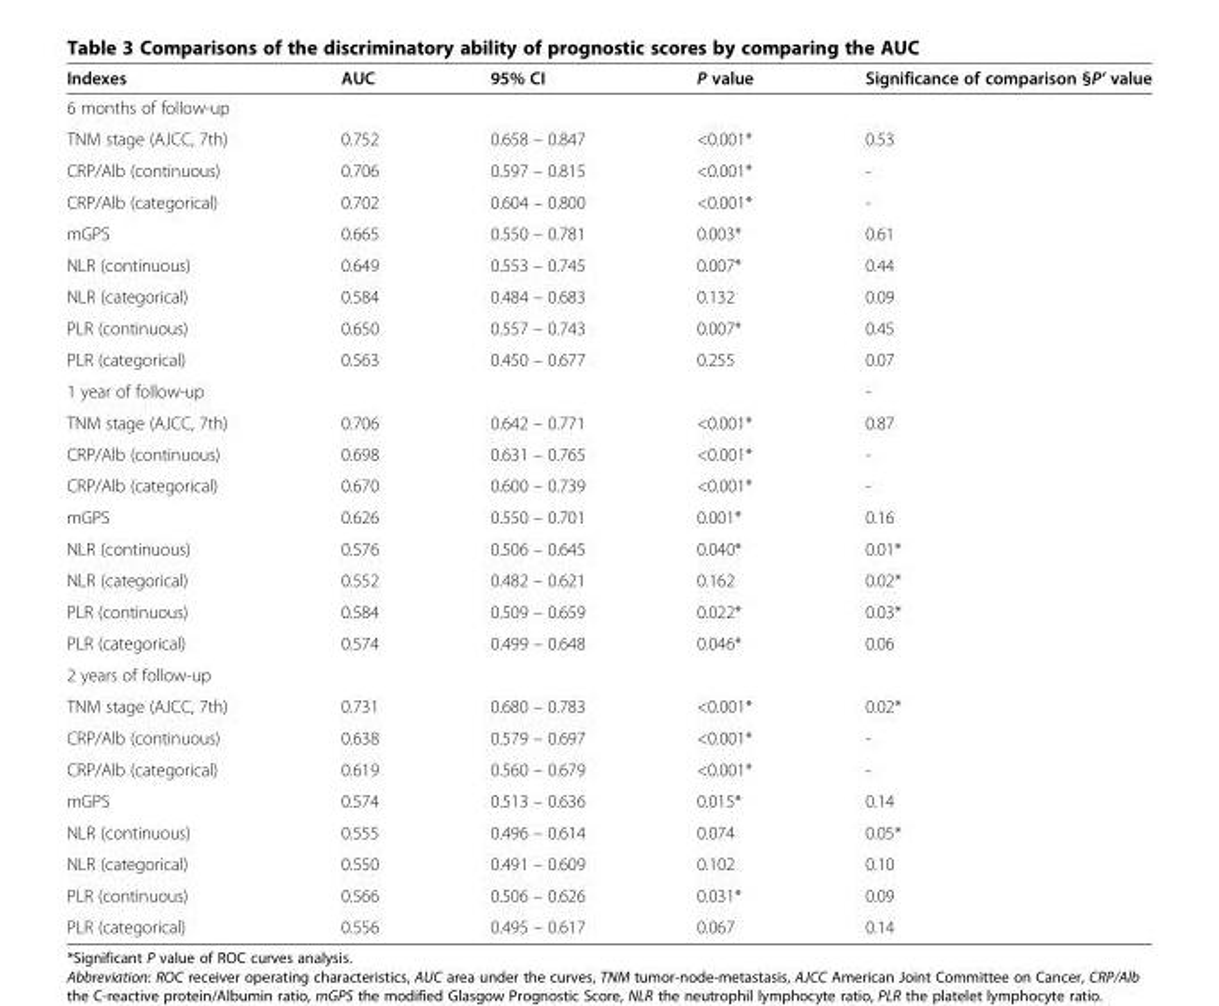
<table><thead><tr><td>Indexes</td><td>AUC</td><td>95% CI</td><td>P value</td><td>Significance of comparison §P’ value</td></tr></thead><tbody><tr><td colspan="5">6 months of follow-up</td></tr><tr><td>TNM stage (AJCC, 7th)</td><td>0.752</td><td>0.658 – 0.847</td><td>&lt;0.001*</td><td>0.53</td></tr><tr><td>CRP/Alb (continuous)</td><td>0.706</td><td>0.597 – 0.815</td><td>&lt;0.001*</td><td>-</td></tr><tr><td>CRP/Alb (categorical)</td><td>0.702</td><td>0.604 – 0.800</td><td>&lt;0.001*</td><td>-</td></tr><tr><td>mGPS</td><td>0.665</td><td>0.550 – 0.781</td><td>0.003*</td><td>0.61</td></tr><tr><td>NLR (continuous)</td><td>0.649</td><td>0.553 – 0.745</td><td>0.007*</td><td>0.44</td></tr><tr><td>NLR (categorical)</td><td>0.584</td><td>0.484 – 0.683</td><td>0.132</td><td>0.09</td></tr><tr><td>PLR (continuous)</td><td>0.650</td><td>0.557 – 0.743</td><td>0.007*</td><td>0.45</td></tr><tr><td>PLR (categorical)</td><td>0.563</td><td>0.450 – 0.677</td><td>0.255</td><td>0.07</td></tr><tr><td>1 year of follow-up</td><td></td><td></td><td></td><td>-</td></tr><tr><td>TNM stage (AJCC, 7th)</td><td>0.706</td><td>0.642 – 0.771</td><td>&lt;0.001*</td><td>0.87</td></tr><tr><td>CRP/Alb (continuous)</td><td>0.698</td><td>0.631 – 0.765</td><td>&lt;0.001*</td><td>-</td></tr><tr><td>CRP/Alb (categorical)</td><td>0.670</td><td>0.600 – 0.739</td><td>&lt;0.001*</td><td>-</td></tr><tr><td>mGPS</td><td>0.626</td><td>0.550 – 0.701</td><td>0.001*</td><td>0.16</td></tr><tr><td>NLR (continuous)</td><td>0.576</td><td>0.506 – 0.645</td><td>0.040*</td><td>0.01*</td></tr><tr><td>NLR (categorical)</td><td>0.552</td><td>0.482 – 0.621</td><td>0.162</td><td>0.02*</td></tr><tr><td>PLR (continuous)</td><td>0.584</td><td>0.509 – 0.659</td><td>0.022*</td><td>0.03*</td></tr><tr><td>PLR (categorical)</td><td>0.574</td><td>0.499 – 0.648</td><td>0.046*</td><td>0.06</td></tr><tr><td colspan="5">2 years of follow-up</td></tr><tr><td>TNM stage (AJCC, 7th)</td><td>0.731</td><td>0.680 – 0.783</td><td>&lt;0.001*</td><td>0.02*</td></tr><tr><td>CRP/Alb (continuous)</td><td>0.638</td><td>0.579 – 0.697</td><td>&lt;0.001*</td><td>-</td></tr><tr><td>CRP/Alb (categorical)</td><td>0.619</td><td>0.560 – 0.679</td><td>&lt;0.001*</td><td>-</td></tr><tr><td>mGPS</td><td>0.574</td><td>0.513 – 0.636</td><td>0.015*</td><td>0.14</td></tr><tr><td>NLR (continuous)</td><td>0.555</td><td>0.496 – 0.614</td><td>0.074</td><td>0.05*</td></tr><tr><td>NLR (categorical)</td><td>0.550</td><td>0.491 – 0.609</td><td>0.102</td><td>0.10</td></tr><tr><td>PLR (continuous)</td><td>0.566</td><td>0.506 – 0.626</td><td>0.031*</td><td>0.09</td></tr><tr><td>PLR (categorical)</td><td>0.556</td><td>0.495 – 0.617</td><td>0.067</td><td>0.14</td></tr></tbody></table>